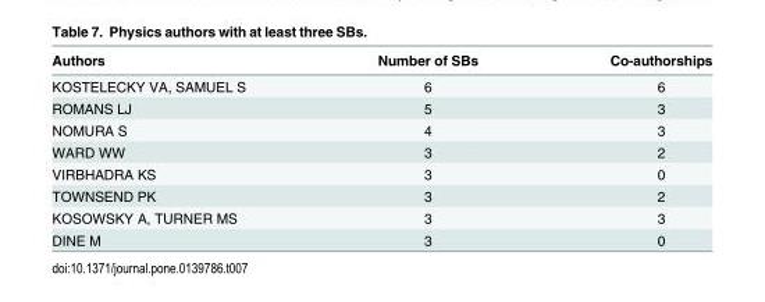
<table><thead><tr><td>Authors</td><td>Number of SBs</td><td>Co-authorships</td></tr></thead><tbody><tr><td>KOSTELECKY VA, SAMUEL S</td><td>6</td><td>6</td></tr><tr><td>ROMANS LJ</td><td>5</td><td>3</td></tr><tr><td>NOMURA S</td><td>4</td><td>3</td></tr><tr><td>WARD WW</td><td>3</td><td>2</td></tr><tr><td>VIRBHADRA KS</td><td>3</td><td>0</td></tr><tr><td>TOWNSEND PK</td><td>3</td><td>2</td></tr><tr><td>KOSOWSKY A, TURNER MS</td><td>3</td><td>3</td></tr><tr><td>DINE M</td><td>3</td><td>0</td></tr></tbody></table>